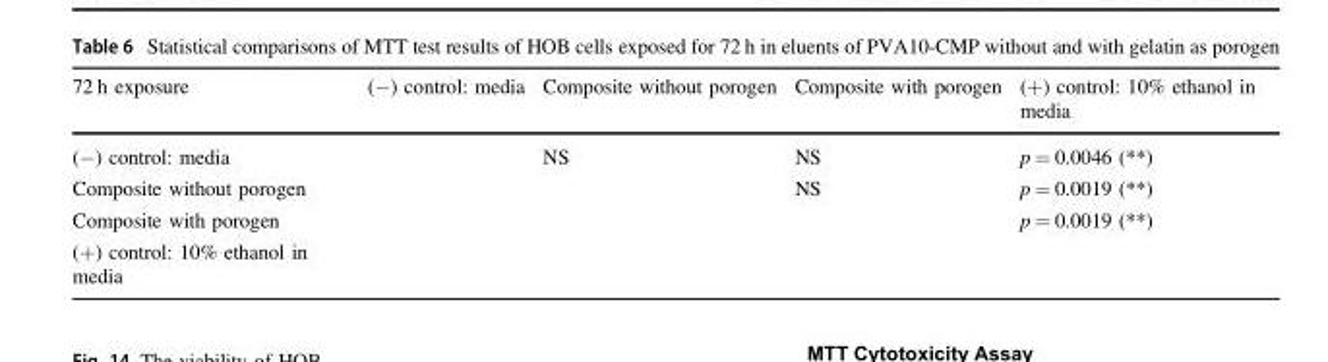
<table><thead><tr><td>72 h exposure</td><td>(−) control: media</td><td>Composite without porogen</td><td>Composite with porogen</td><td>(+) control: 10% ethanol in media</td></tr></thead><tbody><tr><td>(−) control: media</td><td></td><td>NS</td><td>NS</td><td>p = 0.0046 (**)</td></tr><tr><td>Composite without porogen</td><td></td><td></td><td>NS</td><td>p = 0.0019 (**)</td></tr><tr><td>Composite with porogen</td><td></td><td></td><td></td><td>p = 0.0019 (**)</td></tr><tr><td>(+) control: 10% ethanol in media</td><td></td><td></td><td></td><td></td></tr></tbody></table>